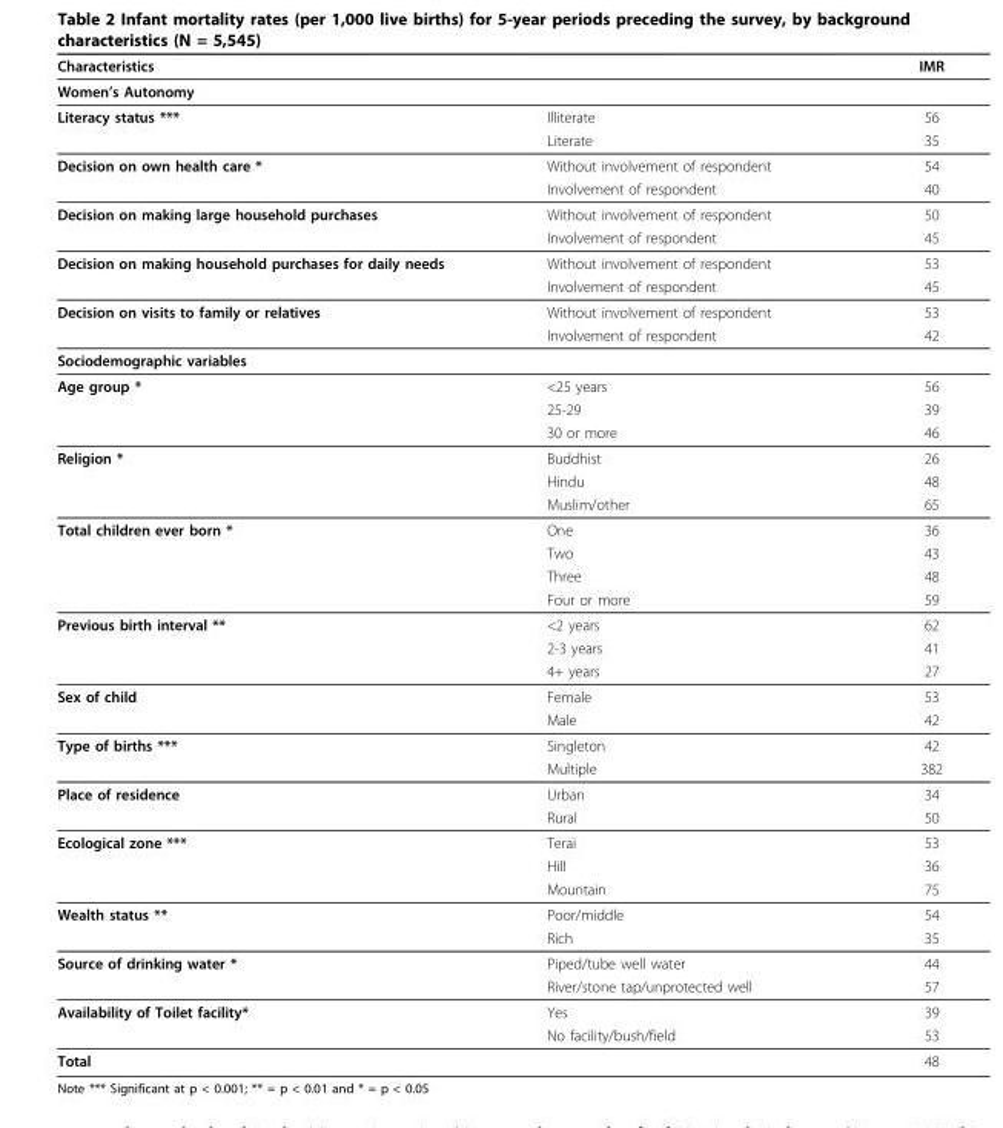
<table><thead><tr><td>Characteristics</td><td></td><td>IMR</td></tr></thead><tbody><tr><td colspan="3">Women’s Autonomy</td></tr><tr><td rowspan="2">Literacy status ***</td><td>Illiterate</td><td>56</td></tr><tr><td>Literate</td><td>35</td></tr><tr><td rowspan="2">Decision on own health care *</td><td>Without involvement of respondent</td><td>54</td></tr><tr><td>Involvement of respondent</td><td>40</td></tr><tr><td rowspan="2">Decision on making large household purchases</td><td>Without involvement of respondent</td><td>50</td></tr><tr><td>Involvement of respondent</td><td>45</td></tr><tr><td rowspan="2">Decision on making household purchases for daily needs</td><td>Without involvement of respondent</td><td>53</td></tr><tr><td>Involvement of respondent</td><td>45</td></tr><tr><td rowspan="2">Decision on visits to family or relatives</td><td>Without involvement of respondent</td><td>53</td></tr><tr><td>Involvement of respondent</td><td>42</td></tr><tr><td colspan="3">Sociodemographic variables</td></tr><tr><td rowspan="3">Age group *</td><td>&lt;25 years</td><td>56</td></tr><tr><td>25-29</td><td>39</td></tr><tr><td>30 or more</td><td>46</td></tr><tr><td rowspan="3">Religion *</td><td>Buddhist</td><td>26</td></tr><tr><td>Hindu</td><td>48</td></tr><tr><td>Muslim/other</td><td>65</td></tr><tr><td rowspan="4">Total children ever born *</td><td>One</td><td>36</td></tr><tr><td>Two</td><td>43</td></tr><tr><td>Three</td><td>48</td></tr><tr><td>Four or more</td><td>59</td></tr><tr><td rowspan="3">Previous birth interval **</td><td>&lt;2 years</td><td>62</td></tr><tr><td>2-3 years</td><td>41</td></tr><tr><td>4+ years</td><td>27</td></tr><tr><td rowspan="2">Sex of child</td><td>Female</td><td>53</td></tr><tr><td>Male</td><td>42</td></tr><tr><td rowspan="2">Type of births ***</td><td>Singleton</td><td>42</td></tr><tr><td>Multiple</td><td>382</td></tr><tr><td rowspan="2">Place of residence</td><td>Urban</td><td>34</td></tr><tr><td>Rural</td><td>50</td></tr><tr><td rowspan="3">Ecological zone ***</td><td>Terai</td><td>53</td></tr><tr><td>Hill</td><td>36</td></tr><tr><td>Mountain</td><td>75</td></tr><tr><td rowspan="2">Wealth status **</td><td>Poor/middle</td><td>54</td></tr><tr><td>Rich</td><td>35</td></tr><tr><td rowspan="2">Source of drinking water *</td><td>Piped/tube well water</td><td>44</td></tr><tr><td>River/stone tap/unprotected well</td><td>57</td></tr><tr><td rowspan="2">Availability of Toilet facility*</td><td>Yes</td><td>39</td></tr><tr><td>No facility/bush/field</td><td>53</td></tr><tr><td colspan="2">Total</td><td>48</td></tr></tbody></table>